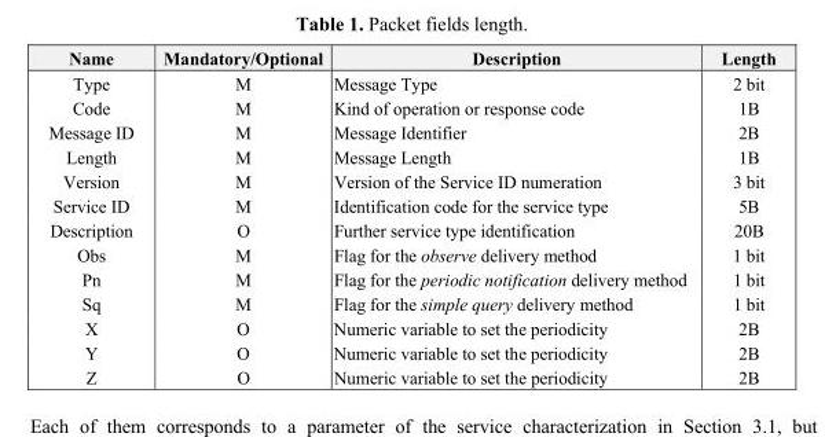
<table><thead><tr><td>Name</td><td>Mandatory/Optional</td><td>Description</td><td>Length</td></tr></thead><tbody><tr><td>Type</td><td>M</td><td>Message Type</td><td>2 bit</td></tr><tr><td>Code</td><td>M</td><td>Kind of operation or response code</td><td>1B</td></tr><tr><td>Message ID</td><td>M</td><td>Message Identifier</td><td>2B</td></tr><tr><td>Length</td><td>M</td><td>Message Length</td><td>1B</td></tr><tr><td>Version</td><td>M</td><td>Version of the Service ID numeration</td><td>3 bit</td></tr><tr><td>Service ID</td><td>M</td><td>Identification code for the service type</td><td>5B</td></tr><tr><td>Description</td><td>O</td><td>Further service type identification</td><td>20B</td></tr><tr><td>Obs</td><td>M</td><td>Flag for the observe delivery method</td><td>1 bit</td></tr><tr><td>Pn</td><td>M</td><td>Flag for the periodic notification delivery method</td><td>1 bit</td></tr><tr><td>Sq</td><td>M</td><td>Flag for the simple query delivery method</td><td>1 bit</td></tr><tr><td>X</td><td>O</td><td>Numeric variable to set the periodicity</td><td>2B</td></tr><tr><td>Y</td><td>O</td><td>Numeric variable to set the periodicity</td><td>2B</td></tr><tr><td>Z</td><td>O</td><td>Numeric variable to set the periodicity</td><td>2B</td></tr></tbody></table>